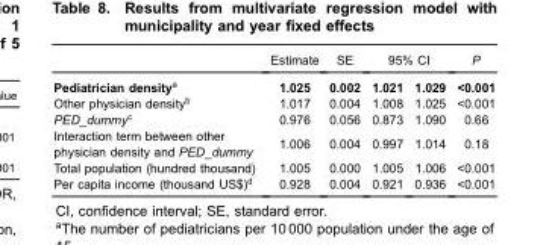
<table><thead><tr><td rowspan="2">Pediatrician density<sup>a</sup></td><td rowspan="2">Estimate 1.025</td><td rowspan="2">SE 0.002</td><td colspan="2">95% CI</td><td rowspan="2">P &lt;0.001</td></tr><tr><td>1.021</td><td>1.029</td></tr></thead><tbody><tr><td>Other physician density<sup>b</sup></td><td>1.017</td><td>0.004</td><td>1.008</td><td>1.025</td><td>&lt;0.001</td></tr><tr><td>PED_dummy<sup>c</sup></td><td>0.976</td><td>0.056</td><td>0.873</td><td>1.090</td><td>0.66</td></tr><tr><td>Interaction term between other physician density and PED_dummy</td><td>1.006</td><td>0.004</td><td>0.997</td><td>1.014</td><td>0.18</td></tr><tr><td>Total population (hundred thousand)</td><td>1.005</td><td>0.000</td><td>1.005</td><td>1.006</td><td>&lt;0.001</td></tr><tr><td>Per capita income (thousand US$)<sup>d</sup></td><td>0.928</td><td>0.004</td><td>0.921</td><td>0.936</td><td>&lt;0.001</td></tr></tbody></table>